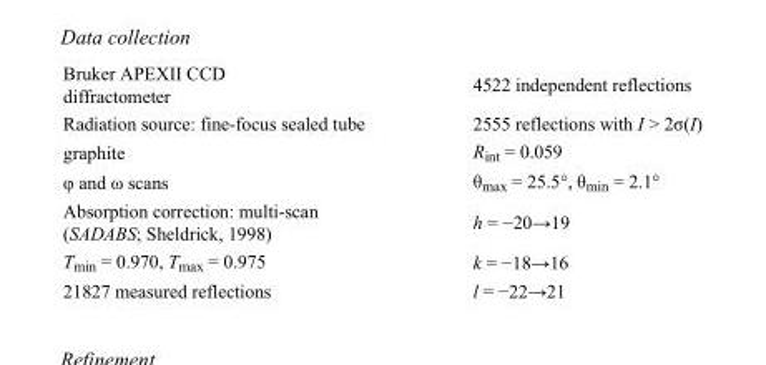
<table><tbody><tr><td>Bruker APEXII CCD diffractometer</td><td>4522 independent reflections</td></tr><tr><td>Radiation source: fine-focus sealed tube</td><td>2555 reflections with I &gt; 2σ(I)</td></tr><tr><td>graphite</td><td>R<sub>int</sub> = 0.059</td></tr><tr><td>φ and ω scans</td><td>θ<sub>max</sub> = 25.5°, θ<sub>min</sub> = 2.1°</td></tr><tr><td>Absorption correction: multi-scan (SADABS; Sheldrick, 1998)</td><td>h = −20→19</td></tr><tr><td>T<sub>min</sub> = 0.970, T<sub>max</sub> = 0.975</td><td>k = −18→16</td></tr><tr><td>21827 measured reflections</td><td>l = −22→21</td></tr></tbody></table>